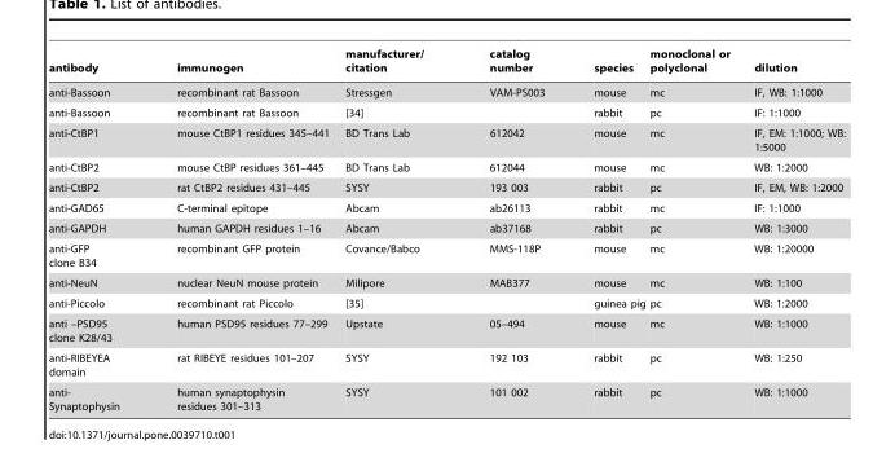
<table><thead><tr><td>antibody</td><td>immunogen</td><td>manufacturer/ citation</td><td>catalog number</td><td>species</td><td>monoclonal or polyclonal</td><td>dilution</td></tr></thead><tbody><tr><td>anti-Bassoon</td><td>recombinant rat Bassoon</td><td>Stressgen</td><td>VAM-PS003</td><td>mouse</td><td>mc</td><td>IF, WB: 1:1000</td></tr><tr><td>anti-Bassoon</td><td>recombinant rat Bassoon</td><td colspan="2">[34]</td><td>rabbit</td><td>pc</td><td>IF: 1:1000</td></tr><tr><td>anti-CtBP1</td><td>mouse CtBP1 residues 345–441</td><td>BD Trans Lab</td><td>612042</td><td>mouse</td><td>mc</td><td>IF, EM: 1:1000; WB: 1:5000</td></tr><tr><td>anti-CtBP2</td><td>mouse CtBP residues 361–445</td><td>BD Trans Lab</td><td>612044</td><td>mouse</td><td>mc</td><td>WB: 1:2000</td></tr><tr><td>anti-CtBP2</td><td>rat CtBP2 residues 431–445</td><td>SYSY</td><td>193 003</td><td>rabbit</td><td>pc</td><td>IF, EM, WB: 1:2000</td></tr><tr><td>anti-GAD65</td><td>C-terminal epitope</td><td>Abcam</td><td>ab26113</td><td>rabbit</td><td>mc</td><td>IF: 1:1000</td></tr><tr><td>anti-GAPDH</td><td>human GAPDH residues 1–16</td><td>Abcam</td><td>ab37168</td><td>rabbit</td><td>pc</td><td>WB: 1:3000</td></tr><tr><td>anti-GFP clone B34</td><td>recombinant GFP protein</td><td>Covance/Babco</td><td>MMS-118P</td><td>mouse</td><td>mc</td><td>WB: 1:20000</td></tr><tr><td>anti-NeuN</td><td>nuclear NeuN mouse protein</td><td>Milipore</td><td>MAB377</td><td>mouse</td><td>mc</td><td>WB: 1:100</td></tr><tr><td>anti-Piccolo</td><td>recombinant rat Piccolo</td><td colspan="2">[35]</td><td>guinea pig</td><td>pc</td><td>WB: 1:2000</td></tr><tr><td>anti –PSD95 clone K28/43</td><td>human PSD95 residues 77–299</td><td>Upstate</td><td>05–494</td><td>mouse</td><td>mc</td><td>WB: 1:1000</td></tr><tr><td>anti-RIBEYEA domain</td><td>rat RIBEYE residues 101–207</td><td>SYSY</td><td>192 103</td><td>rabbit</td><td>pc</td><td>WB: 1:250</td></tr><tr><td>anti- Synaptophysin</td><td>human synaptophysin residues 301–313</td><td>SYSY</td><td>101 002</td><td>rabbit</td><td>pc</td><td>WB: 1:1000</td></tr></tbody></table>